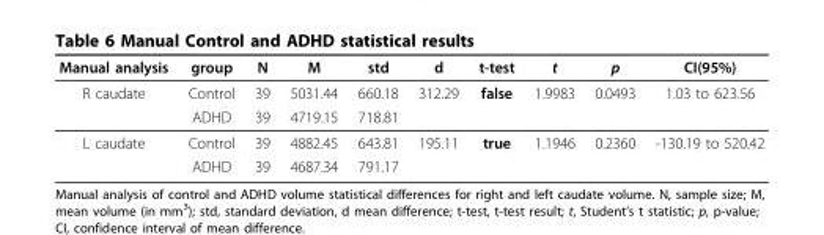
<table><thead><tr><td>Manual analysis</td><td>group</td><td>N</td><td>M</td><td>std</td><td>d</td><td>t-test</td><td>t</td><td>p</td><td>CI(95%)</td></tr></thead><tbody><tr><td rowspan="2">R caudate</td><td>Control</td><td>39</td><td>5031.44</td><td>660.18</td><td>312.29</td><td>false</td><td>1.9983</td><td>0.0493</td><td>1.03 to 623.56</td></tr><tr><td>ADHD</td><td>39</td><td>4719.15</td><td>718.81</td><td></td><td></td><td></td><td></td><td></td></tr><tr><td rowspan="2">L caudate</td><td>Control</td><td>39</td><td>4882.45</td><td>643.81</td><td>195.11</td><td>true</td><td>1.1946</td><td>0.2360</td><td>-130.19 to 520.42</td></tr><tr><td>ADHD</td><td>39</td><td>4687.34</td><td>791.17</td><td></td><td></td><td></td><td></td><td></td></tr></tbody></table>